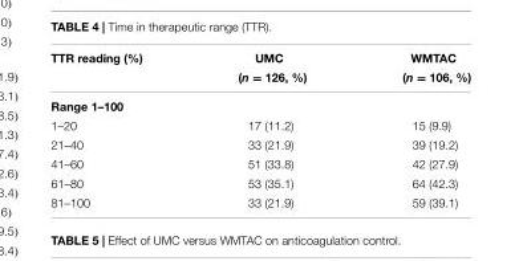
<table><thead><tr><td rowspan="2">TTR reading (%)</td><td rowspan="2">UMC (n = 126, %)</td><td rowspan="2">WMTAC (n = 106, %)</td></tr><tr></tr></thead><tbody><tr><td colspan="3">Range 1–100</td></tr><tr><td>1–20</td><td>17 (11.2)</td><td>15 (9.9)</td></tr><tr><td>21–40</td><td>33 (21.9)</td><td>39 (19.2)</td></tr><tr><td>41–60</td><td>51 (33.8)</td><td>42 (27.9)</td></tr><tr><td>61–80</td><td>53 (35.1)</td><td>64 (42.3)</td></tr><tr><td>81–100</td><td>33 (21.9)</td><td>59 (39.1)</td></tr></tbody></table>